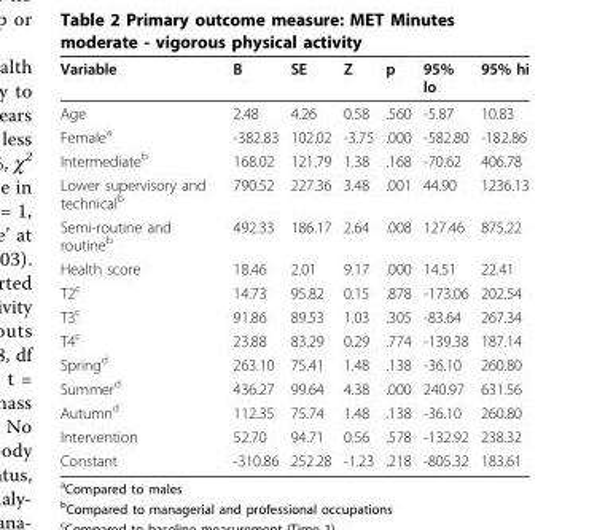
<table><thead><tr><td>Variable</td><td>B</td><td>SE</td><td>Z</td><td>p</td><td>95% lo</td><td>95% hi</td></tr></thead><tbody><tr><td>Age</td><td>2.48</td><td>4.26</td><td>0.58</td><td>.560</td><td>-5.87</td><td>10.83</td></tr><tr><td>Female<sup>a</sup></td><td>-382.83</td><td>102.02</td><td>-3.75</td><td>.000</td><td>-582.80</td><td>-182.86</td></tr><tr><td>Intermediate<sup>b</sup></td><td>168.02</td><td>121.79</td><td>1.38</td><td>.168</td><td>-70.62</td><td>406.78</td></tr><tr><td>Lower supervisory and technical<sup>b</sup></td><td>790.52</td><td>227.36</td><td>3.48</td><td>.001</td><td>44.90</td><td>1236.13</td></tr><tr><td>Semi-routine and routine<sup>b</sup></td><td>492.33</td><td>186.17</td><td>2.64</td><td>.008</td><td>127.46</td><td>875.22</td></tr><tr><td>Health score</td><td>18.46</td><td>2.01</td><td>9.17</td><td>.000</td><td>14.51</td><td>22.41</td></tr><tr><td>T2<sup>c</sup></td><td>14.73</td><td>95.82</td><td>0.15</td><td>.878</td><td>-173.06</td><td>202.54</td></tr><tr><td>T3<sup>c</sup></td><td>91.86</td><td>89.53</td><td>1.03</td><td>.305</td><td>-83.64</td><td>267.34</td></tr><tr><td>T4<sup>c</sup></td><td>23.88</td><td>83.29</td><td>0.29</td><td>.774</td><td>-139.38</td><td>187.14</td></tr><tr><td>Spring<sup>d</sup></td><td>263.10</td><td>75.41</td><td>1.48</td><td>.138</td><td>-36.10</td><td>260.80</td></tr><tr><td>Summer<sup>d</sup></td><td>436.27</td><td>99.64</td><td>4.38</td><td>.000</td><td>240.97</td><td>631.56</td></tr><tr><td>Autumn<sup>d</sup></td><td>112.35</td><td>75.74</td><td>1.48</td><td>.138</td><td>-36.10</td><td>260.80</td></tr><tr><td>Intervention</td><td>52.70</td><td>94.71</td><td>0.56</td><td>.578</td><td>-132.92</td><td>238.32</td></tr><tr><td>Constant</td><td>-310.86</td><td>252.28</td><td>-1.23</td><td>.218</td><td>-805.32</td><td>183.61</td></tr></tbody></table>